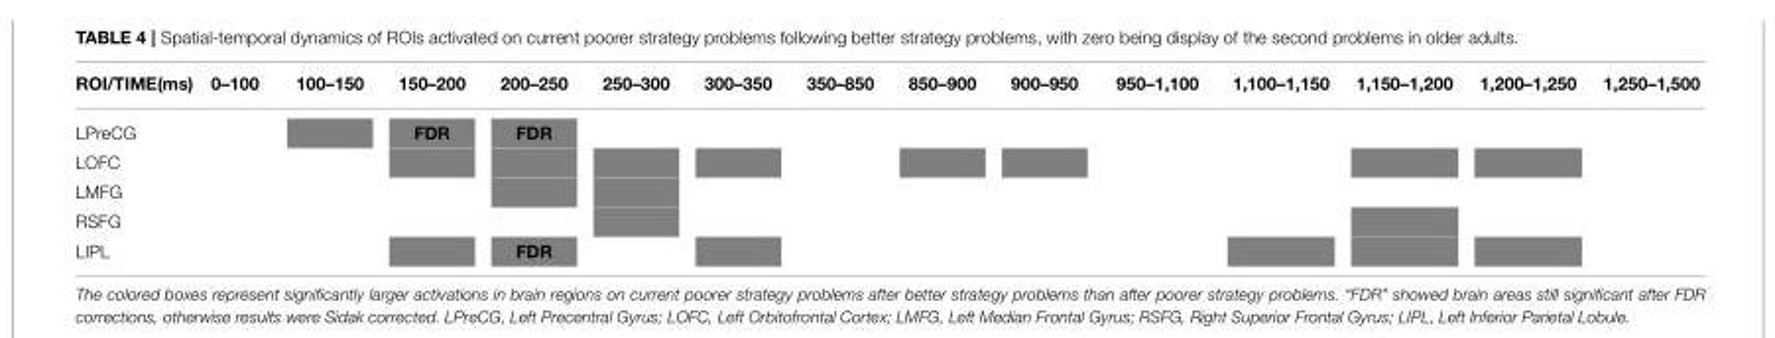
<table><thead><tr><td>ROI/TIME(ms)</td><td>0–100</td><td>100–150</td><td>150–200</td><td>200–250</td><td>250–300</td><td>300–350</td><td>350–850</td><td>850–900</td><td>900–950</td><td>950–1,100</td><td>1,100–1,150</td><td>1,150–1,200</td><td>1,200–1,250</td><td>1,250–1,500</td></tr></thead><tbody><tr><td>LPreCG</td><td></td><td></td><td>FDR</td><td>FDR</td><td></td><td></td><td></td><td></td><td></td><td></td><td></td><td></td><td></td><td></td></tr><tr><td colspan="15">LOFC</td></tr><tr><td colspan="15">LMFG</td></tr><tr><td colspan="15">RSFG</td></tr><tr><td>LIPL</td><td></td><td></td><td></td><td>FDR</td><td></td><td></td><td></td><td></td><td></td><td></td><td></td><td></td><td></td><td></td></tr></tbody></table>